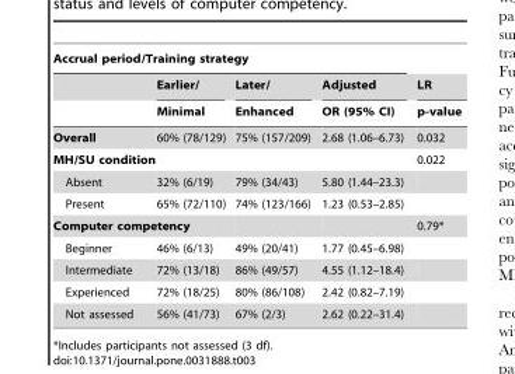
<table><thead><tr><td colspan="4">Accrual period/Training strategy</td><td rowspan="3">LR p-value</td></tr><tr><td rowspan="2"></td><td rowspan="2">Earlier/ Minimal</td><td rowspan="2">Later/ Enhanced</td><td rowspan="2">Adjusted OR (95% CI)</td></tr><tr></tr></thead><tbody><tr><td>Overall</td><td>60% (78/129)</td><td>75% (157/209)</td><td>2.68 (1.06–6.73)</td><td>0.032</td></tr><tr><td colspan="2">MH/SU condition</td><td></td><td></td><td>0.022</td></tr><tr><td>Absent</td><td>32% (6/19)</td><td>79% (34/43)</td><td>5.80 (1.44–23.3)</td><td></td></tr><tr><td>Present</td><td>65% (72/110)</td><td>74% (123/166)</td><td>1.23 (0.53–2.85)</td><td></td></tr><tr><td colspan="2">Computer competency</td><td></td><td></td><td>0.79*</td></tr><tr><td>Beginner</td><td>46% (6/13)</td><td>49% (20/41)</td><td>1.77 (0.45–6.98)</td><td></td></tr><tr><td>Intermediate</td><td>72% (13/18)</td><td>86% (49/57)</td><td>4.55 (1.12–18.4)</td><td></td></tr><tr><td>Experienced</td><td>72% (18/25)</td><td>80% (86/108)</td><td>2.42 (0.82–7.19)</td><td></td></tr><tr><td>Not assessed</td><td>56% (41/73)</td><td>67% (2/3)</td><td>2.62 (0.22–31.4)</td><td></td></tr></tbody></table>